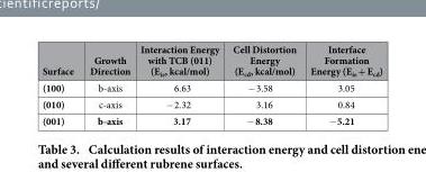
<table><thead><tr><td>Surface</td><td>Growth Direction</td><td>Interaction Energy with TCB (011) (E<sub>ie</sub>, kcal/mol)</td><td>Cell Distortion Energy (E<sub>cd</sub>, kcal/mol)</td><td>Interface Formation Energy (E<sub>ie</sub> + E<sub>cd</sub>)</td></tr></thead><tbody><tr><td>(100)</td><td>b-axis</td><td>6.63</td><td>− 3.58</td><td>3.05</td></tr><tr><td>(010)</td><td>c-axis</td><td>− 2.32</td><td>3.16</td><td>0.84</td></tr><tr><td>(001)</td><td>b-axis</td><td>3.17</td><td>− 8.38</td><td>− 5.21</td></tr></tbody></table>